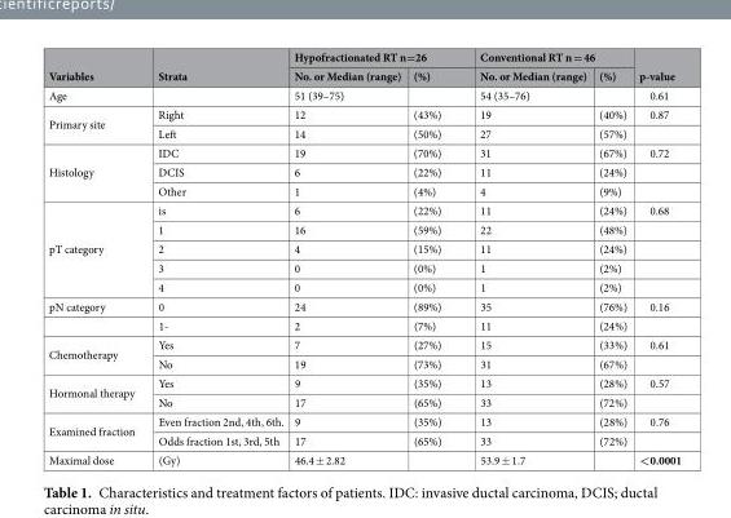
<table><thead><tr><td rowspan="2">Variables</td><td rowspan="2">Strata</td><td colspan="2">Hypofractionated RT n=26</td><td colspan="2">Conventional RT n = 46</td><td rowspan="2">p-value</td></tr><tr><td>No. or Median (range)</td><td>(%)</td><td>No. or Median (range)</td><td>(%)</td></tr></thead><tbody><tr><td>Age</td><td></td><td>51 (39–75)</td><td></td><td>54 (35–76)</td><td></td><td>0.61</td></tr><tr><td rowspan="2">Primary site</td><td>Right</td><td>12</td><td>(43%)</td><td>19</td><td>(40%)</td><td>0.87</td></tr><tr><td>Left</td><td>14</td><td>(50%)</td><td>27</td><td>(57%)</td><td></td></tr><tr><td rowspan="3">Histology</td><td>IDC</td><td>19</td><td>(70%)</td><td>31</td><td>(67%)</td><td>0.72</td></tr><tr><td>DCIS</td><td>6</td><td>(22%)</td><td>11</td><td>(24%)</td><td></td></tr><tr><td>Other</td><td>1</td><td>(4%)</td><td>4</td><td>(9%)</td><td></td></tr><tr><td rowspan="5">pT category</td><td>is</td><td>6</td><td>(22%)</td><td>11</td><td>(24%)</td><td>0.68</td></tr><tr><td>1</td><td>16</td><td>(59%)</td><td>22</td><td>(48%)</td><td></td></tr><tr><td>2</td><td>4</td><td>(15%)</td><td>11</td><td>(24%)</td><td></td></tr><tr><td>3</td><td>0</td><td>(0%)</td><td>1</td><td>(2%)</td><td></td></tr><tr><td>4</td><td>0</td><td>(0%)</td><td>1</td><td>(2%)</td><td></td></tr><tr><td rowspan="2">pN category</td><td>0</td><td>24</td><td>(89%)</td><td>35</td><td>(76%)</td><td>0.16</td></tr><tr><td>1-</td><td>2</td><td>(7%)</td><td>11</td><td>(24%)</td><td></td></tr><tr><td rowspan="2">Chemotherapy</td><td>Yes</td><td>7</td><td>(27%)</td><td>15</td><td>(33%)</td><td>0.61</td></tr><tr><td>No</td><td>19</td><td>(73%)</td><td>31</td><td>(67%)</td><td></td></tr><tr><td rowspan="2">Hormonal therapy</td><td>Yes</td><td>9</td><td>(35%)</td><td>13</td><td>(28%)</td><td>0.57</td></tr><tr><td>No</td><td>17</td><td>(65%)</td><td>33</td><td>(72%)</td><td></td></tr><tr><td rowspan="2">Examined fraction</td><td>Even fraction 2nd, 4th, 6th.</td><td>9</td><td>(35%)</td><td>13</td><td>(28%)</td><td>0.76</td></tr><tr><td>Odds fraction 1st, 3rd, 5th</td><td>17</td><td>(65%)</td><td>33</td><td>(72%)</td><td></td></tr><tr><td>Maximal dose</td><td>(Gy)</td><td>46.4 ± 2.82</td><td></td><td>53.9 ± 1.7</td><td></td><td>&lt;0.0001</td></tr></tbody></table>